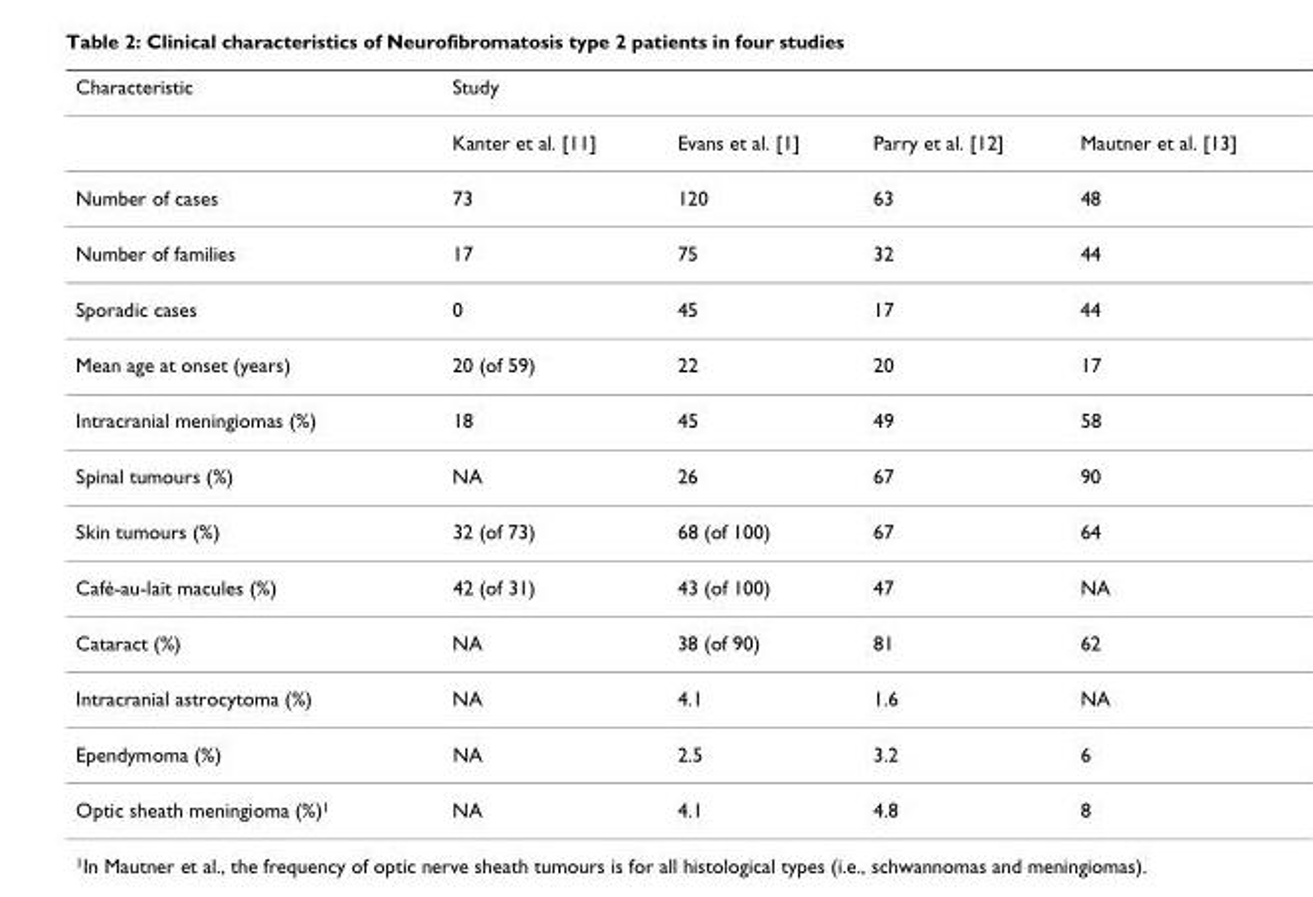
<table><thead><tr><td>Characteristic</td><td>Study</td><td></td><td></td><td></td></tr></thead><tbody><tr><td></td><td>Kanter et al. [11]</td><td>Evans et al. [1]</td><td>Parry et al. [12]</td><td>Mautner et al. [13]</td></tr><tr><td>Number of cases</td><td>73</td><td>120</td><td>63</td><td>48</td></tr><tr><td>Number of families</td><td>17</td><td>75</td><td>32</td><td>44</td></tr><tr><td>Sporadic cases</td><td>0</td><td>45</td><td>17</td><td>44</td></tr><tr><td>Mean age at onset (years)</td><td>20 (of 59)</td><td>22</td><td>20</td><td>17</td></tr><tr><td>Intracranial meningiomas (%)</td><td>18</td><td>45</td><td>49</td><td>58</td></tr><tr><td>Spinal tumours (%)</td><td>NA</td><td>26</td><td>67</td><td>90</td></tr><tr><td>Skin tumours (%)</td><td>32 (of 73)</td><td>68 (of 100)</td><td>67</td><td>64</td></tr><tr><td>Café-au-lait macules (%)</td><td>42 (of 31)</td><td>43 (of 100)</td><td>47</td><td>NA</td></tr><tr><td>Cataract (%)</td><td>NA</td><td>38 (of 90)</td><td>81</td><td>62</td></tr><tr><td>Intracranial astrocytoma (%)</td><td>NA</td><td>4.1</td><td>1.6</td><td>NA</td></tr><tr><td>Ependymoma (%)</td><td>NA</td><td>2.5</td><td>3.2</td><td>6</td></tr><tr><td>Optic sheath meningioma (%)<sup>1</sup></td><td>NA</td><td>4.1</td><td>4.8</td><td>8</td></tr></tbody></table>